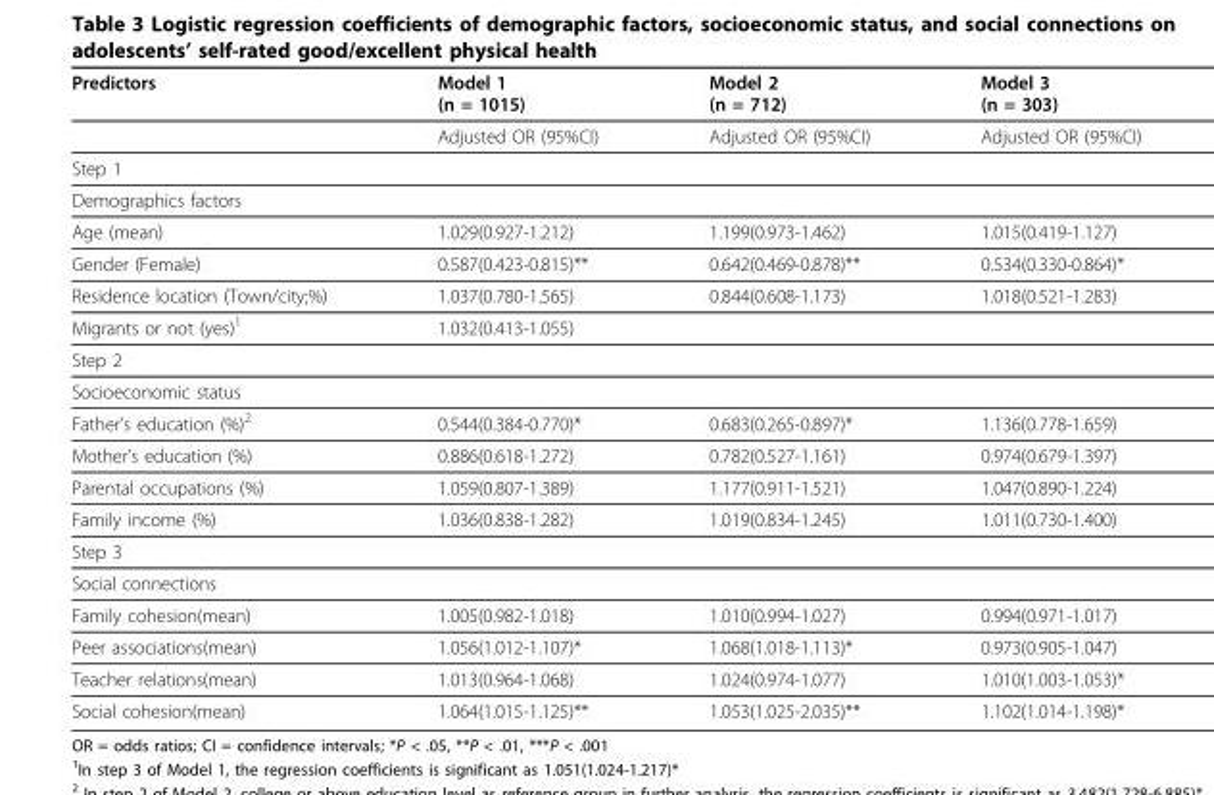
<table><thead><tr><td>Predictors</td><td>Model 1 (n = 1015)</td><td>Model 2 (n = 712)</td><td>Model 3 (n = 303)</td></tr></thead><tbody><tr><td></td><td>Adjusted OR (95%CI)</td><td>Adjusted OR (95%CI)</td><td>Adjusted OR (95%CI)</td></tr><tr><td colspan="4">Step 1</td></tr><tr><td colspan="4">Demographics factors</td></tr><tr><td>Age (mean)</td><td>1.029(0.927-1.212)</td><td>1.199(0.973-1.462)</td><td>1.015(0.419-1.127)</td></tr><tr><td>Gender (Female)</td><td>0.587(0.423-0.815)**</td><td>0.642(0.469-0.878)**</td><td>0.534(0.330-0.864)*</td></tr><tr><td>Residence location (Town/city;%)</td><td>1.037(0.780-1.565)</td><td>0.844(0.608-1.173)</td><td>1.018(0.521-1.283)</td></tr><tr><td>Migrants or not (yes)<sup>1</sup></td><td>1.032(0.413-1.055)</td><td></td><td></td></tr><tr><td colspan="4">Step 2</td></tr><tr><td colspan="4">Socioeconomic status</td></tr><tr><td>Father’s education (%)<sup>2</sup></td><td>0.544(0.384-0.770)*</td><td>0.683(0.265-0.897)*</td><td>1.136(0.778-1.659)</td></tr><tr><td>Mother’s education (%)</td><td>0.886(0.618-1.272)</td><td>0.782(0.527-1.161)</td><td>0.974(0.679-1.397)</td></tr><tr><td>Parental occupations (%)</td><td>1.059(0.807-1.389)</td><td>1.177(0.911-1.521)</td><td>1.047(0.890-1.224)</td></tr><tr><td>Family income (%)</td><td>1.036(0.838-1.282)</td><td>1.019(0.834-1.245)</td><td>1.011(0.730-1.400)</td></tr><tr><td colspan="4">Step 3</td></tr><tr><td colspan="4">Social connections</td></tr><tr><td>Family cohesion(mean)</td><td>1.005(0.982-1.018)</td><td>1.010(0.994-1.027)</td><td>0.994(0.971-1.017)</td></tr><tr><td>Peer associations(mean)</td><td>1.056(1.012-1.107)*</td><td>1.068(1.018-1.113)*</td><td>0.973(0.905-1.047)</td></tr><tr><td>Teacher relations(mean)</td><td>1.013(0.964-1.068)</td><td>1.024(0.974-1.077)</td><td>1.010(1.003-1.053)*</td></tr><tr><td>Social cohesion(mean)</td><td>1.064(1.015-1.125)**</td><td>1.053(1.025-2.035)**</td><td>1.102(1.014-1.198)*</td></tr></tbody></table>